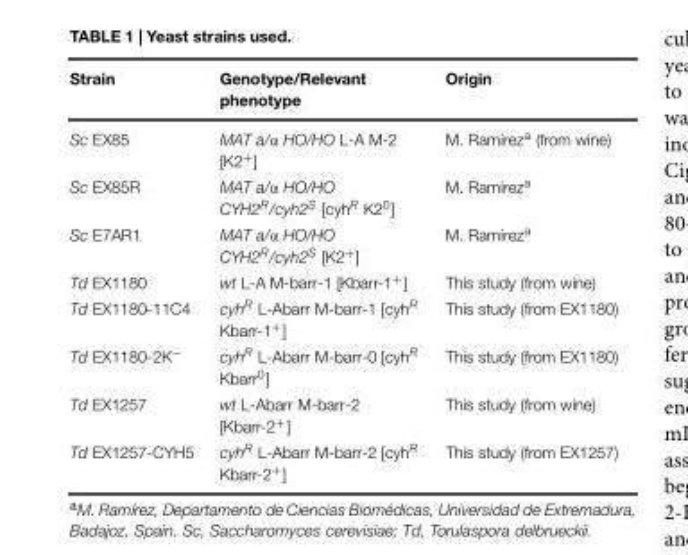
<table><thead><tr><td>Strain</td><td>Genotype/Relevant phenotype</td><td>Origin</td></tr></thead><tbody><tr><td>Sc EX85</td><td>MAT a/α HO/HO L-A M-2 [K2<sup>+</sup>]</td><td>M. Ramírez<sup>a</sup> (from wine)</td></tr><tr><td>Sc EX85R</td><td>MAT a/α HO/HO CYH2<sup>R</sup>/cyh2<sup>S</sup> [cyh<sup>R</sup> K2<sup>0</sup>]</td><td>M. Ramírez<sup>a</sup></td></tr><tr><td>Sc E7AR1</td><td>MAT a/α HO/HO CYH2<sup>R</sup>/cyh2<sup>S</sup> [K2<sup>+</sup>]</td><td>M. Ramírez<sup>a</sup></td></tr><tr><td>Td EX1180</td><td>wt L-A M-barr-1 [Kbarr-1<sup>+</sup>]</td><td>This study (from wine)</td></tr><tr><td>Td EX1180-11C4</td><td>cyh<sup>R</sup> L-Abarr M-barr-1 [cyh<sup>R</sup> Kbarr-1<sup>+</sup>]</td><td>This study (from EX1180)</td></tr><tr><td>Td EX1180-2K<sup>−</sup></td><td>cyh<sup>R</sup> L-Abarr M-barr-0 [cyh<sup>R</sup> Kbarr<sup>0</sup>]</td><td>This study (from EX1180)</td></tr><tr><td>Td EX1257</td><td>wt L-Abarr M-barr-2 [Kbarr-2<sup>+</sup>]</td><td>This study (from wine)</td></tr><tr><td>Td EX1257-CYH5</td><td>cyh<sup>R</sup> L-Abarr M-barr-2 [cyh<sup>R</sup> Kbarr-2<sup>+</sup>]</td><td>This study (from EX1257)</td></tr></tbody></table>